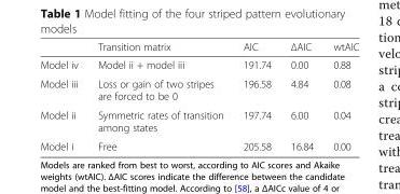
<table><thead><tr><td></td><td>Transition matrix</td><td>AIC</td><td>ΔAIC</td><td>wtAIC</td></tr></thead><tbody><tr><td>Model iv</td><td>Model ii + model iii</td><td>191.74</td><td>0.00</td><td>0.88</td></tr><tr><td>Model iii</td><td>Loss or gain of two stripes are forced to be 0</td><td>196.58</td><td>4.84</td><td>0.08</td></tr><tr><td>Model ii</td><td>Symmetric rates of transition among states</td><td>197.74</td><td>6.00</td><td>0.04</td></tr><tr><td>Model i</td><td>Free</td><td>205.58</td><td>16.84</td><td>0.00</td></tr></tbody></table>